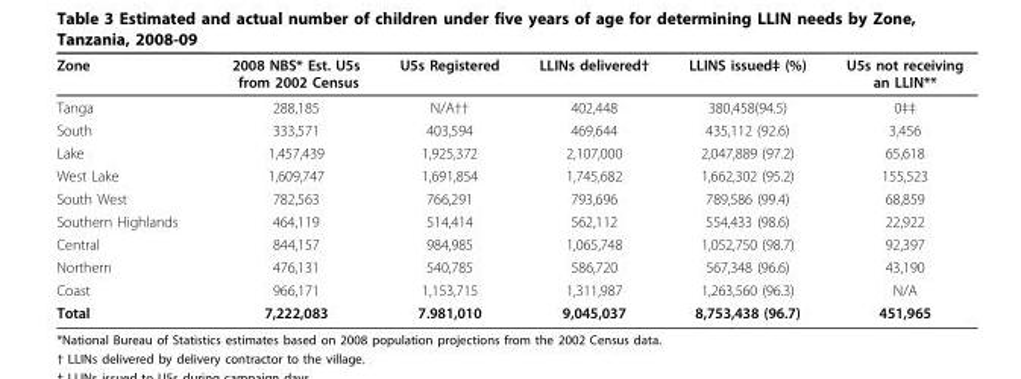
<table><thead><tr><td>Zone</td><td>2008 NBS* Est. U5s from 2002 Census</td><td>U5s Registered</td><td>LLINs delivered†</td><td>LLINS issued‡ (%)</td><td>U5s not receiving an LLIN**</td></tr></thead><tbody><tr><td>Tanga</td><td>288,185</td><td>N/A††</td><td>402,448</td><td>380,458(94.5)</td><td>0‡‡</td></tr><tr><td>South</td><td>333,571</td><td>403,594</td><td>469,644</td><td>435,112 (92.6)</td><td>3,456</td></tr><tr><td>Lake</td><td>1,457,439</td><td>1,925,372</td><td>2,107,000</td><td>2,047,889 (97.2)</td><td>65,618</td></tr><tr><td>West Lake</td><td>1,609,747</td><td>1,691,854</td><td>1,745,682</td><td>1,662,302 (95.2)</td><td>155,523</td></tr><tr><td>South West</td><td>782,563</td><td>766,291</td><td>793,696</td><td>789,586 (99.4)</td><td>68,859</td></tr><tr><td>Southern Highlands</td><td>464,119</td><td>514,414</td><td>562,112</td><td>554,433 (98.6)</td><td>22,922</td></tr><tr><td>Central</td><td>844,157</td><td>984,985</td><td>1,065,748</td><td>1,052,750 (98.7)</td><td>92,397</td></tr><tr><td>Northern</td><td>476,131</td><td>540,785</td><td>586,720</td><td>567,348 (96.6)</td><td>43,190</td></tr><tr><td>Coast</td><td>966,171</td><td>1,153,715</td><td>1,311,987</td><td>1,263,560 (96.3)</td><td>N/A</td></tr><tr><td>Total</td><td>7,222,083</td><td>7.981,010</td><td>9,045,037</td><td>8,753,438 (96.7)</td><td>451,965</td></tr></tbody></table>